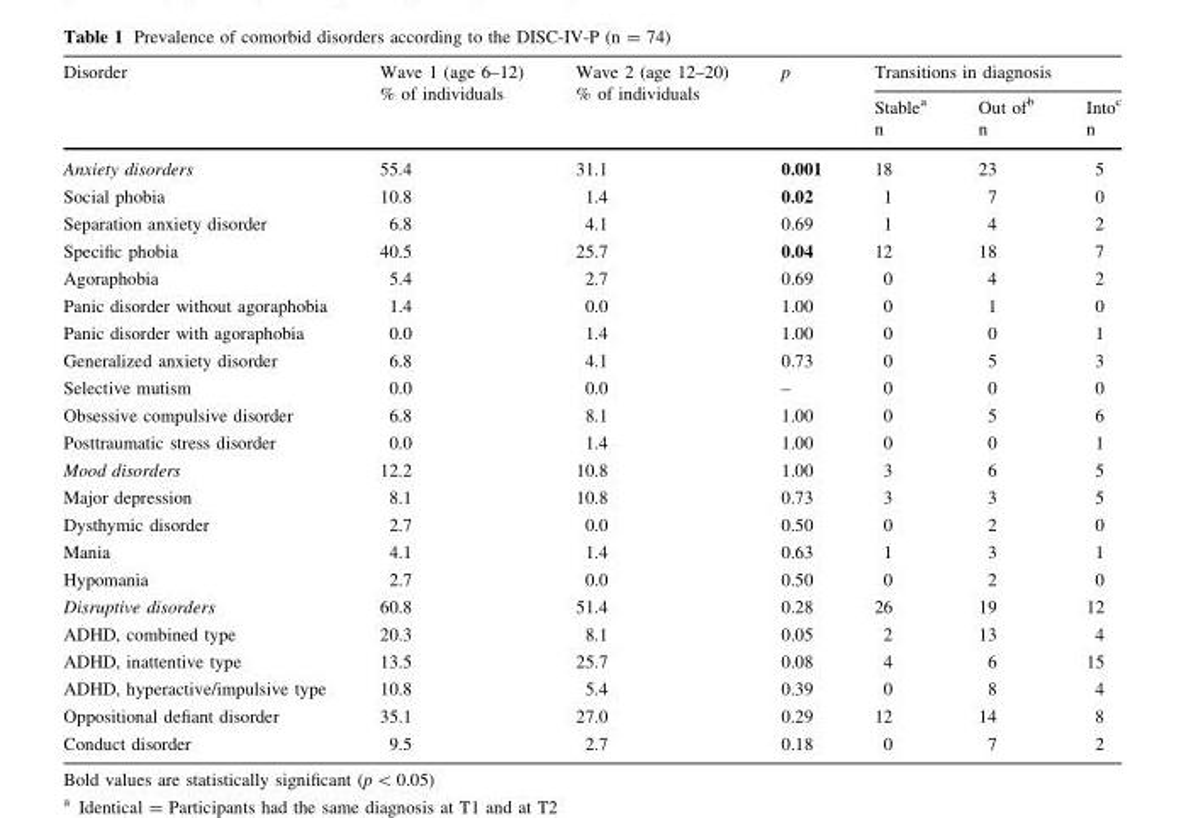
<table><thead><tr><td rowspan="3">Disorder</td><td rowspan="3">Wave 1 (age 6–12) % of individuals</td><td rowspan="3">Wave 2 (age 12–20) % of individuals</td><td rowspan="3">p</td><td colspan="3">Transitions in diagnosis</td></tr><tr><td rowspan="2">Stable<sup>a</sup> n</td><td rowspan="2">Out of<sup>b</sup> n</td><td rowspan="2">Into<sup>c</sup> n</td></tr><tr></tr></thead><tbody><tr><td>Anxiety disorders</td><td>55.4</td><td>31.1</td><td>0.001</td><td>18</td><td>23</td><td>5</td></tr><tr><td>Social phobia</td><td>10.8</td><td>1.4</td><td>0.02</td><td>1</td><td>7</td><td>0</td></tr><tr><td>Separation anxiety disorder</td><td>6.8</td><td>4.1</td><td>0.69</td><td>1</td><td>4</td><td>2</td></tr><tr><td>Specific phobia</td><td>40.5</td><td>25.7</td><td>0.04</td><td>12</td><td>18</td><td>7</td></tr><tr><td>Agoraphobia</td><td>5.4</td><td>2.7</td><td>0.69</td><td>0</td><td>4</td><td>2</td></tr><tr><td>Panic disorder without agoraphobia</td><td>1.4</td><td>0.0</td><td>1.00</td><td>0</td><td>1</td><td>0</td></tr><tr><td>Panic disorder with agoraphobia</td><td>0.0</td><td>1.4</td><td>1.00</td><td>0</td><td>0</td><td>1</td></tr><tr><td>Generalized anxiety disorder</td><td>6.8</td><td>4.1</td><td>0.73</td><td>0</td><td>5</td><td>3</td></tr><tr><td>Selective mutism</td><td>0.0</td><td>0.0</td><td>–</td><td>0</td><td>0</td><td>0</td></tr><tr><td>Obsessive compulsive disorder</td><td>6.8</td><td>8.1</td><td>1.00</td><td>0</td><td>5</td><td>6</td></tr><tr><td>Posttraumatic stress disorder</td><td>0.0</td><td>1.4</td><td>1.00</td><td>0</td><td>0</td><td>1</td></tr><tr><td>Mood disorders</td><td>12.2</td><td>10.8</td><td>1.00</td><td>3</td><td>6</td><td>5</td></tr><tr><td>Major depression</td><td>8.1</td><td>10.8</td><td>0.73</td><td>3</td><td>3</td><td>5</td></tr><tr><td>Dysthymic disorder</td><td>2.7</td><td>0.0</td><td>0.50</td><td>0</td><td>2</td><td>0</td></tr><tr><td>Mania</td><td>4.1</td><td>1.4</td><td>0.63</td><td>1</td><td>3</td><td>1</td></tr><tr><td>Hypomania</td><td>2.7</td><td>0.0</td><td>0.50</td><td>0</td><td>2</td><td>0</td></tr><tr><td>Disruptive disorders</td><td>60.8</td><td>51.4</td><td>0.28</td><td>26</td><td>19</td><td>12</td></tr><tr><td>ADHD, combined type</td><td>20.3</td><td>8.1</td><td>0.05</td><td>2</td><td>13</td><td>4</td></tr><tr><td>ADHD, inattentive type</td><td>13.5</td><td>25.7</td><td>0.08</td><td>4</td><td>6</td><td>15</td></tr><tr><td>ADHD, hyperactive/impulsive type</td><td>10.8</td><td>5.4</td><td>0.39</td><td>0</td><td>8</td><td>4</td></tr><tr><td>Oppositional defiant disorder</td><td>35.1</td><td>27.0</td><td>0.29</td><td>12</td><td>14</td><td>8</td></tr><tr><td>Conduct disorder</td><td>9.5</td><td>2.7</td><td>0.18</td><td>0</td><td>7</td><td>2</td></tr></tbody></table>